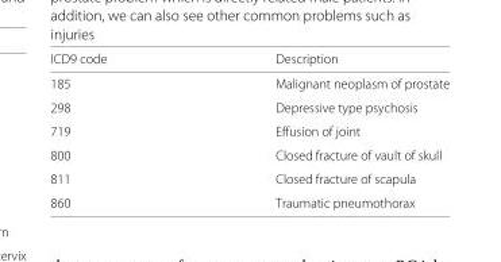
<table><thead><tr><td>ICD9 code</td><td>Description</td></tr></thead><tbody><tr><td>185</td><td>Malignant neoplasm of prostate</td></tr><tr><td>298</td><td>Depressive type psychosis</td></tr><tr><td>719</td><td>Effusion of joint</td></tr><tr><td>800</td><td>Closed fracture of vault of skull</td></tr><tr><td>811</td><td>Closed fracture of scapula</td></tr><tr><td>860</td><td>Traumatic pneumothorax</td></tr></tbody></table>